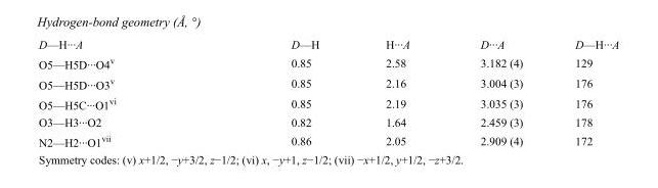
<table><tbody><tr><td>D—H···A</td><td>D—H</td><td>H···A</td><td>D···A</td><td>D—H···A</td></tr><tr><td>O5—H5D···O4<sup>v</sup></td><td>0.85</td><td>2.58</td><td>3.182 (4)</td><td>129</td></tr><tr><td>O5—H5D···O3<sup>v</sup></td><td>0.85</td><td>2.16</td><td>3.004 (3)</td><td>176</td></tr><tr><td>O5—H5C···O1<sup>vi</sup></td><td>0.85</td><td>2.19</td><td>3.035 (3)</td><td>176</td></tr><tr><td>O3—H3···O2</td><td>0.82</td><td>1.64</td><td>2.459 (3)</td><td>178</td></tr><tr><td>N2—H2···O1<sup>vii</sup></td><td>0.86</td><td>2.05</td><td>2.909 (4)</td><td>172</td></tr></tbody></table>